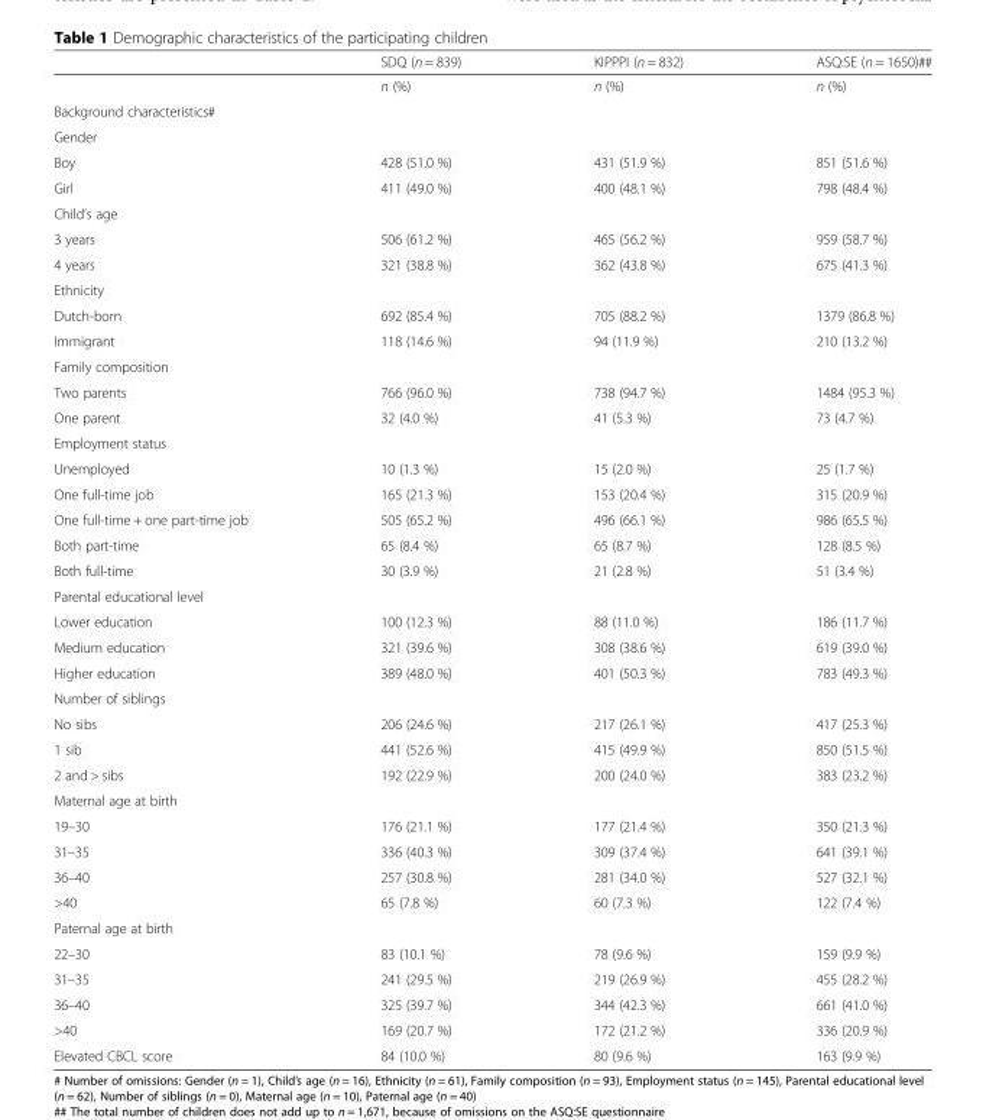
<table><thead><tr><td></td><td>SDQ (n = 839)</td><td>KIPPPI (n = 832)</td><td>ASQ:SE (n = 1650)##</td></tr></thead><tbody><tr><td></td><td>n (%)</td><td>n (%)</td><td>n (%)</td></tr><tr><td colspan="4">Background characteristics#</td></tr><tr><td colspan="4">Gender</td></tr><tr><td>Boy</td><td>428 (51.0 %)</td><td>431 (51.9 %)</td><td>851 (51.6 %)</td></tr><tr><td>Girl</td><td>411 (49.0 %)</td><td>400 (48.1 %)</td><td>798 (48.4 %)</td></tr><tr><td colspan="4">Child’s age</td></tr><tr><td>3 years</td><td>506 (61.2 %)</td><td>465 (56.2 %)</td><td>959 (58.7 %)</td></tr><tr><td>4 years</td><td>321 (38.8 %)</td><td>362 (43.8 %)</td><td>675 (41.3 %)</td></tr><tr><td colspan="4">Ethnicity</td></tr><tr><td>Dutch-born</td><td>692 (85.4 %)</td><td>705 (88.2 %)</td><td>1379 (86.8 %)</td></tr><tr><td>Immigrant</td><td>118 (14.6 %)</td><td>94 (11.9 %)</td><td>210 (13.2 %)</td></tr><tr><td colspan="4">Family composition</td></tr><tr><td>Two parents</td><td>766 (96.0 %)</td><td>738 (94.7 %)</td><td>1484 (95.3 %)</td></tr><tr><td>One parent</td><td>32 (4.0 %)</td><td>41 (5.3 %)</td><td>73 (4.7 %)</td></tr><tr><td colspan="4">Employment status</td></tr><tr><td>Unemployed</td><td>10 (1.3 %)</td><td>15 (2.0 %)</td><td>25 (1.7 %)</td></tr><tr><td>One full-time job</td><td>165 (21.3 %)</td><td>153 (20.4 %)</td><td>315 (20.9 %)</td></tr><tr><td>One full-time + one part-time job</td><td>505 (65.2 %)</td><td>496 (66.1 %)</td><td>986 (65.5 %)</td></tr><tr><td>Both part-time</td><td>65 (8.4 %)</td><td>65 (8.7 %)</td><td>128 (8.5 %)</td></tr><tr><td>Both full-time</td><td>30 (3.9 %)</td><td>21 (2.8 %)</td><td>51 (3.4 %)</td></tr><tr><td colspan="4">Parental educational level</td></tr><tr><td>Lower education</td><td>100 (12.3 %)</td><td>88 (11.0 %)</td><td>186 (11.7 %)</td></tr><tr><td>Medium education</td><td>321 (39.6 %)</td><td>308 (38.6 %)</td><td>619 (39.0 %)</td></tr><tr><td>Higher education</td><td>389 (48.0 %)</td><td>401 (50.3 %)</td><td>783 (49.3 %)</td></tr><tr><td colspan="4">Number of siblings</td></tr><tr><td>No sibs</td><td>206 (24.6 %)</td><td>217 (26.1 %)</td><td>417 (25.3 %)</td></tr><tr><td>1 sib</td><td>441 (52.6 %)</td><td>415 (49.9 %)</td><td>850 (51.5 %)</td></tr><tr><td>2 and &gt; sibs</td><td>192 (22.9 %)</td><td>200 (24.0 %)</td><td>383 (23.2 %)</td></tr><tr><td colspan="4">Maternal age at birth</td></tr><tr><td>19–30</td><td>176 (21.1 %)</td><td>177 (21.4 %)</td><td>350 (21.3 %)</td></tr><tr><td>31–35</td><td>336 (40.3 %)</td><td>309 (37.4 %)</td><td>641 (39.1 %)</td></tr><tr><td>36–40</td><td>257 (30.8 %)</td><td>281 (34.0 %)</td><td>527 (32.1 %)</td></tr><tr><td>&gt;40</td><td>65 (7.8 %)</td><td>60 (7.3 %)</td><td>122 (7.4 %)</td></tr><tr><td colspan="4">Paternal age at birth</td></tr><tr><td>22–30</td><td>83 (10.1 %)</td><td>78 (9.6 %)</td><td>159 (9.9 %)</td></tr><tr><td>31–35</td><td>241 (29.5 %)</td><td>219 (26.9 %)</td><td>455 (28.2 %)</td></tr><tr><td>36–40</td><td>325 (39.7 %)</td><td>344 (42.3 %)</td><td>661 (41.0 %)</td></tr><tr><td>&gt;40</td><td>169 (20.7 %)</td><td>172 (21.2 %)</td><td>336 (20.9 %)</td></tr><tr><td>Elevated CBCL score</td><td>84 (10.0 %)</td><td>80 (9.6 %)</td><td>163 (9.9 %)</td></tr></tbody></table>